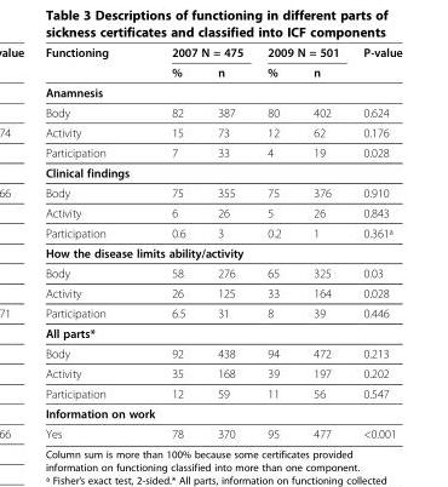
<table><thead><tr><td rowspan="2">Functioning</td><td colspan="2">2007 N = 475</td><td colspan="2">2009 N = 501</td><td rowspan="2">P-value</td></tr><tr><td>%</td><td>n</td><td>%</td><td>n</td></tr></thead><tbody><tr><td colspan="6">Anamnesis</td></tr><tr><td>Body</td><td>82</td><td>387</td><td>80</td><td>402</td><td>0.624</td></tr><tr><td>Activity</td><td>15</td><td>73</td><td>12</td><td>62</td><td>0.176</td></tr><tr><td>Participation</td><td>7</td><td>33</td><td>4</td><td>19</td><td>0.028</td></tr><tr><td colspan="6">Clinical findings</td></tr><tr><td>Body</td><td>75</td><td>355</td><td>75</td><td>376</td><td>0.910</td></tr><tr><td>Activity</td><td>6</td><td>26</td><td>5</td><td>26</td><td>0.843</td></tr><tr><td>Participation</td><td>0.6</td><td>3</td><td>0.2</td><td>1</td><td>0.361ª</td></tr><tr><td colspan="6">How the disease limits ability/activity</td></tr><tr><td>Body</td><td>58</td><td>276</td><td>65</td><td>325</td><td>0.03</td></tr><tr><td>Activity</td><td>26</td><td>125</td><td>33</td><td>164</td><td>0.028</td></tr><tr><td>Participation</td><td>6.5</td><td>31</td><td>8</td><td>39</td><td>0.446</td></tr><tr><td colspan="6">All parts*</td></tr><tr><td>Body</td><td>92</td><td>438</td><td>94</td><td>472</td><td>0.213</td></tr><tr><td>Activity</td><td>35</td><td>168</td><td>39</td><td>197</td><td>0.202</td></tr><tr><td>Participation</td><td>12</td><td>59</td><td>11</td><td>56</td><td>0.547</td></tr><tr><td colspan="6">Information on work</td></tr><tr><td>Yes</td><td>78</td><td>370</td><td>95</td><td>477</td><td>&lt;0.001</td></tr></tbody></table>